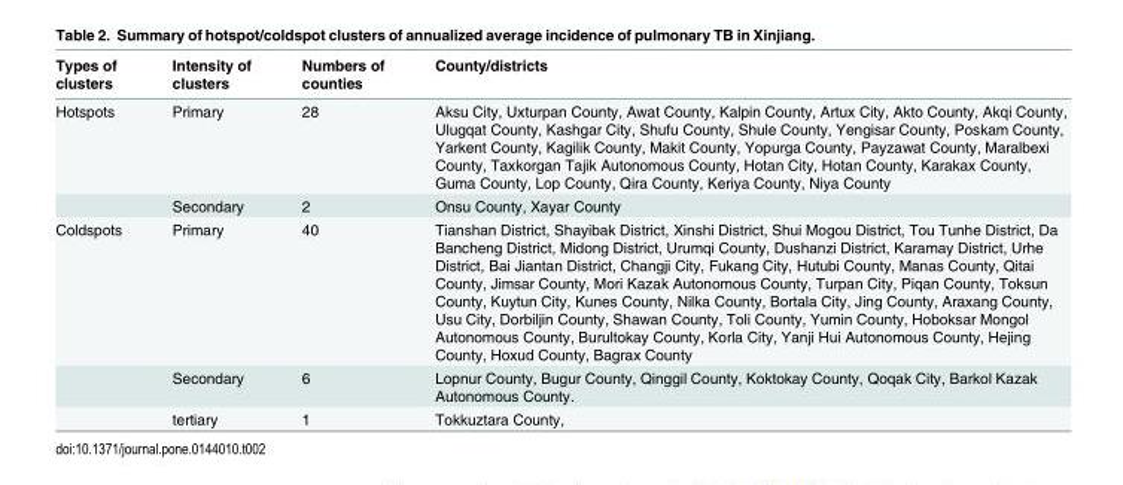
<table><thead><tr><td>Types of clusters</td><td>Intensity of clusters</td><td>Numbers of counties</td><td>County/districts</td></tr></thead><tbody><tr><td rowspan="2">Hotspots</td><td>Primary</td><td>28</td><td>Aksu City, Uxturpan County, Awat County, Kalpin County, Artux City, Akto County, Akqi County, Ulugqat County, Kashgar City, Shufu County, Shule County, Yengisar County, Poskam County, Yarkent County, Kagilik County, Makit County, Yopurga County, Payzawat County, Maralbexi County, Taxkorgan Tajik Autonomous County, Hotan City, Hotan County, Karakax County, Guma County, Lop County, Qira County, Keriya County, Niya County</td></tr><tr><td>Secondary</td><td>2</td><td>Onsu County, Xayar County</td></tr><tr><td rowspan="3">Coldspots</td><td>Primary</td><td>40</td><td>Tianshan District, Shayibak District, Xinshi District, Shui Mogou District, Tou Tunhe District, Da Bancheng District, Midong District, Urumqi County, Dushanzi District, Karamay District, Urhe District, Bai Jiantan District, Changji City, Fukang City, Hutubi County, Manas County, Qitai County, Jimsar County, Mori Kazak Autonomous County, Turpan City, Piqan County, Toksun County, Kuytun City, Kunes County, Nilka County, Bortala City, Jing County, Araxang County, Usu City, Dorbiljin County, Shawan County, Toli County, Yumin County, Hoboksar Mongol Autonomous County, Burultokay County, Korla City, Yanji Hui Autonomous County, Hejing County, Hoxud County, Bagrax County</td></tr><tr><td>Secondary</td><td>6</td><td>Lopnur County, Bugur County, Qinggil County, Koktokay County, Qoqak City, Barkol Kazak Autonomous County.</td></tr><tr><td>tertiary</td><td>1</td><td>Tokkuztara County,</td></tr></tbody></table>